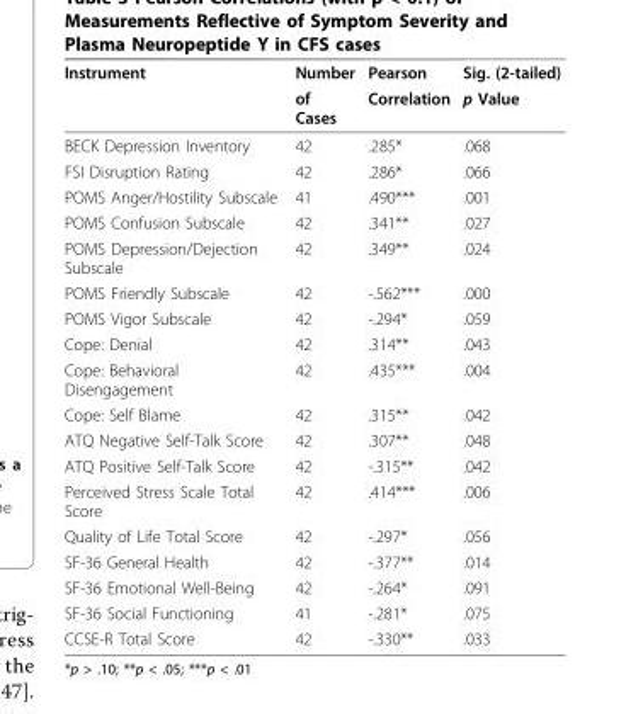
<table><thead><tr><td rowspan="2">Instrument</td><td rowspan="2">Number of Cases</td><td rowspan="2">Pearson Correlation</td><td rowspan="2">Sig. (2-tailed) p Value</td></tr><tr></tr></thead><tbody><tr><td>BECK Depression Inventory</td><td>42</td><td>.285*</td><td>.068</td></tr><tr><td>FSI Disruption Rating</td><td>42</td><td>.286*</td><td>.066</td></tr><tr><td>POMS Anger/Hostility Subscale</td><td>41</td><td>.490***</td><td>.001</td></tr><tr><td>POMS Confusion Subscale</td><td>42</td><td>.341**</td><td>.027</td></tr><tr><td>POMS Depression/Dejection Subscale</td><td>42</td><td>.349**</td><td>.024</td></tr><tr><td>POMS Friendly Subscale</td><td>42</td><td>-.562***</td><td>.000</td></tr><tr><td>POMS Vigor Subscale</td><td>42</td><td>-.294*</td><td>.059</td></tr><tr><td>Cope: Denial</td><td>42</td><td>.314**</td><td>.043</td></tr><tr><td>Cope: Behavioral Disengagement</td><td>42</td><td>.435***</td><td>.004</td></tr><tr><td>Cope: Self Blame</td><td>42</td><td>.315**</td><td>.042</td></tr><tr><td>ATQ Negative Self-Talk Score</td><td>42</td><td>.307**</td><td>.048</td></tr><tr><td>ATQ Positive Self-Talk Score</td><td>42</td><td>-.315**</td><td>.042</td></tr><tr><td>Perceived Stress Scale Total Score</td><td>42</td><td>.414***</td><td>.006</td></tr><tr><td>Quality of Life Total Score</td><td>42</td><td>-.297*</td><td>.056</td></tr><tr><td>SF-36 General Health</td><td>42</td><td>-.377**</td><td>.014</td></tr><tr><td>SF-36 Emotional Well-Being</td><td>42</td><td>-.264*</td><td>.091</td></tr><tr><td>SF-36 Social Functioning</td><td>41</td><td>-.281*</td><td>.075</td></tr><tr><td>CCSE-R Total Score</td><td>42</td><td>-.330**</td><td>.033</td></tr></tbody></table>